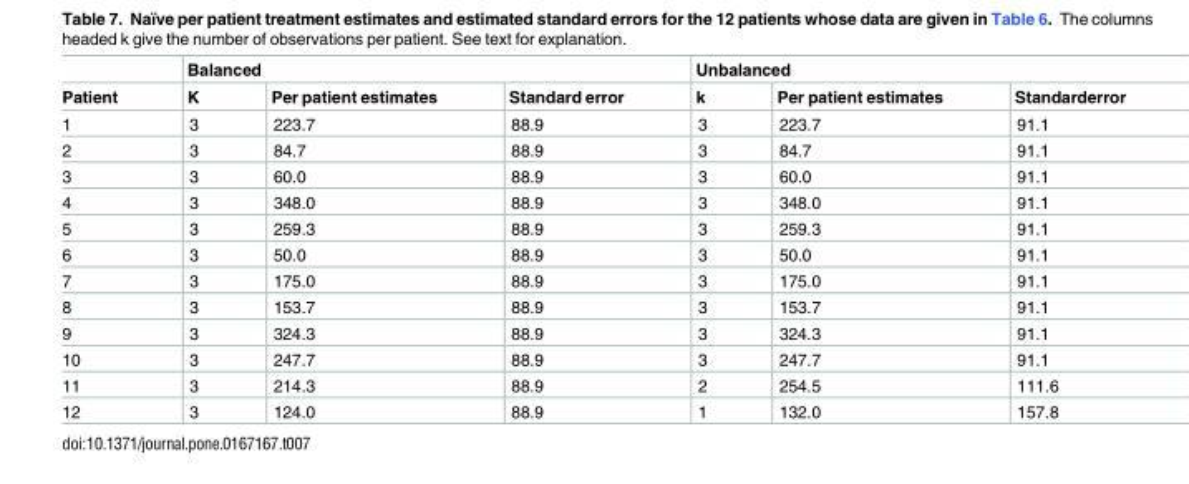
<table><thead><tr><td rowspan="2">Patient</td><td colspan="3">Balanced</td><td colspan="3">Unbalanced</td></tr><tr><td>K</td><td>Per patient estimates</td><td>Standard error</td><td>k</td><td>Per patient estimates</td><td>Standarderror</td></tr></thead><tbody><tr><td>1</td><td>3</td><td>223.7</td><td>88.9</td><td>3</td><td>223.7</td><td>91.1</td></tr><tr><td>2</td><td>3</td><td>84.7</td><td>88.9</td><td>3</td><td>84.7</td><td>91.1</td></tr><tr><td>3</td><td>3</td><td>60.0</td><td>88.9</td><td>3</td><td>60.0</td><td>91.1</td></tr><tr><td>4</td><td>3</td><td>348.0</td><td>88.9</td><td>3</td><td>348.0</td><td>91.1</td></tr><tr><td>5</td><td>3</td><td>259.3</td><td>88.9</td><td>3</td><td>259.3</td><td>91.1</td></tr><tr><td>6</td><td>3</td><td>50.0</td><td>88.9</td><td>3</td><td>50.0</td><td>91.1</td></tr><tr><td>7</td><td>3</td><td>175.0</td><td>88.9</td><td>3</td><td>175.0</td><td>91.1</td></tr><tr><td>8</td><td>3</td><td>153.7</td><td>88.9</td><td>3</td><td>153.7</td><td>91.1</td></tr><tr><td>9</td><td>3</td><td>324.3</td><td>88.9</td><td>3</td><td>324.3</td><td>91.1</td></tr><tr><td>10</td><td>3</td><td>247.7</td><td>88.9</td><td>3</td><td>247.7</td><td>91.1</td></tr><tr><td>11</td><td>3</td><td>214.3</td><td>88.9</td><td>2</td><td>254.5</td><td>111.6</td></tr><tr><td>12</td><td>3</td><td>124.0</td><td>88.9</td><td>1</td><td>132.0</td><td>157.8</td></tr></tbody></table>